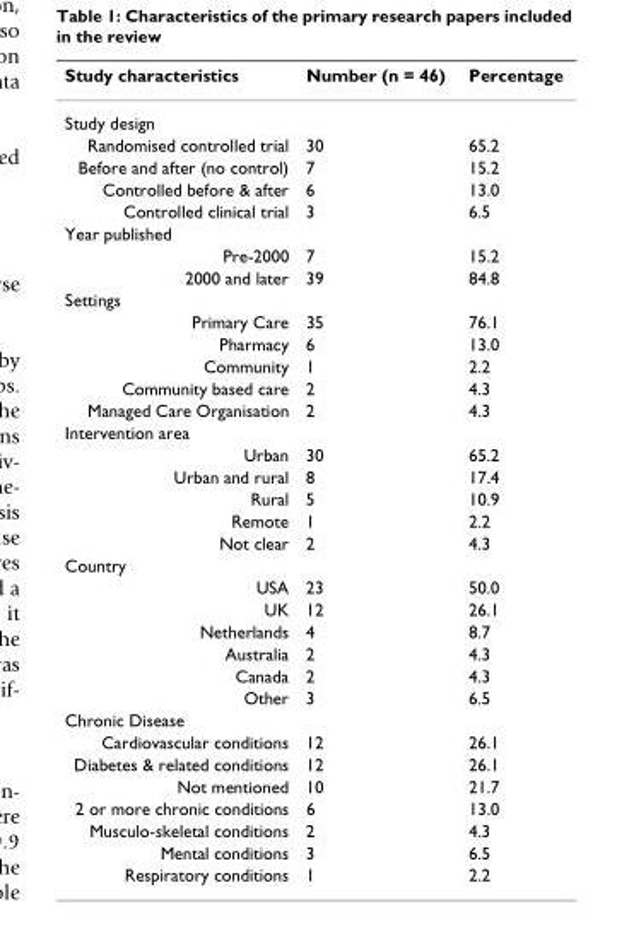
<table><thead><tr><td>Study characteristics</td><td>Number (n = 46)</td><td>Percentage</td></tr></thead><tbody><tr><td colspan="3">Study design</td></tr><tr><td>Randomised controlled trial</td><td>30</td><td>65.2</td></tr><tr><td>Before and after (no control)</td><td>7</td><td>15.2</td></tr><tr><td>Controlled before &amp; after</td><td>6</td><td>13.0</td></tr><tr><td>Controlled clinical trial</td><td>3</td><td>6.5</td></tr><tr><td colspan="3">Year published</td></tr><tr><td>Pre-2000</td><td>7</td><td>15.2</td></tr><tr><td>2000 and later</td><td>39</td><td>84.8</td></tr><tr><td colspan="3">Settings</td></tr><tr><td>Primary Care</td><td>35</td><td>76.1</td></tr><tr><td>Pharmacy</td><td>6</td><td>13.0</td></tr><tr><td>Community</td><td>1</td><td>2.2</td></tr><tr><td>Community based care</td><td>2</td><td>4.3</td></tr><tr><td>Managed Care Organisation</td><td>2</td><td>4.3</td></tr><tr><td colspan="3">Intervention area</td></tr><tr><td>Urban</td><td>30</td><td>65.2</td></tr><tr><td>Urban and rural</td><td>8</td><td>17.4</td></tr><tr><td>Rural</td><td>5</td><td>10.9</td></tr><tr><td>Remote</td><td>1</td><td>2.2</td></tr><tr><td>Not clear</td><td>2</td><td>4.3</td></tr><tr><td colspan="3">Country</td></tr><tr><td>USA</td><td>23</td><td>50.0</td></tr><tr><td>UK</td><td>12</td><td>26.1</td></tr><tr><td>Netherlands</td><td>4</td><td>8.7</td></tr><tr><td>Australia</td><td>2</td><td>4.3</td></tr><tr><td>Canada</td><td>2</td><td>4.3</td></tr><tr><td>Other</td><td>3</td><td>6.5</td></tr><tr><td colspan="3">Chronic Disease</td></tr><tr><td>Cardiovascular conditions</td><td>12</td><td>26.1</td></tr><tr><td>Diabetes &amp; related conditions</td><td>12</td><td>26.1</td></tr><tr><td>Not mentioned</td><td>10</td><td>21.7</td></tr><tr><td>2 or more chronic conditions</td><td>6</td><td>13.0</td></tr><tr><td>Musculo-skeletal conditions</td><td>2</td><td>4.3</td></tr><tr><td>Mental conditions</td><td>3</td><td>6.5</td></tr><tr><td>Respiratory conditions</td><td>1</td><td>2.2</td></tr></tbody></table>